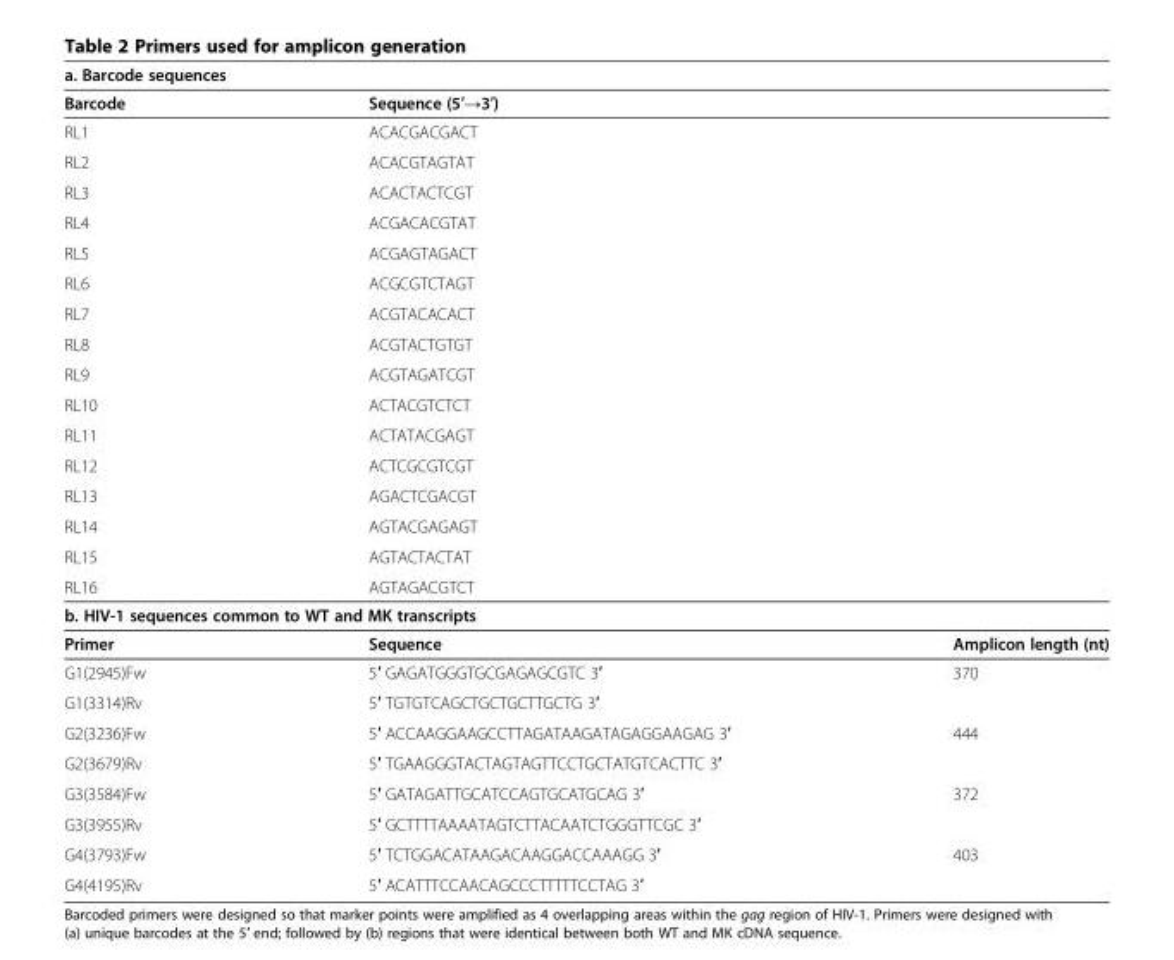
<table><thead><tr><td colspan="3">a. Barcode sequences</td></tr><tr><td>Barcode</td><td colspan="2">Sequence (5′→3′)</td></tr></thead><tbody><tr><td>RL1</td><td colspan="2">ACACGACGACT</td></tr><tr><td>RL2</td><td colspan="2">ACACGTAGTAT</td></tr><tr><td>RL3</td><td colspan="2">ACACTACTCGT</td></tr><tr><td>RL4</td><td colspan="2">ACGACACGTAT</td></tr><tr><td>RL5</td><td colspan="2">ACGAGTAGACT</td></tr><tr><td>RL6</td><td colspan="2">ACGCGTCTAGT</td></tr><tr><td>RL7</td><td colspan="2">ACGTACACACT</td></tr><tr><td>RL8</td><td colspan="2">ACGTACTGTGT</td></tr><tr><td>RL9</td><td colspan="2">ACGTAGATCGT</td></tr><tr><td>RL10</td><td colspan="2">ACTACGTCTCT</td></tr><tr><td>RL11</td><td colspan="2">ACTATACGAGT</td></tr><tr><td>RL12</td><td colspan="2">ACTCGCGTCGT</td></tr><tr><td>RL13</td><td colspan="2">AGACTCGACGT</td></tr><tr><td>RL14</td><td colspan="2">AGTACGAGAGT</td></tr><tr><td>RL15</td><td colspan="2">AGTACTACTAT</td></tr><tr><td>RL16</td><td colspan="2">AGTAGACGTCT</td></tr><tr><td colspan="3">b. HIV-1 sequences common to WT and MK transcripts</td></tr><tr><td>Primer</td><td>Sequence</td><td>Amplicon length (nt)</td></tr><tr><td>G1(2945)Fw</td><td>5′ GAGATGGGTGCGAGAGCGTC 3′</td><td rowspan="2">370</td></tr><tr><td>G1(3314)Rv</td><td>5′ TGTGTCAGCTGCTGCTTGCTG 3′</td></tr><tr><td>G2(3236)Fw</td><td>5′ ACCAAGGAAGCCTTAGATAAGATAGAGGAAGAG 3′</td><td rowspan="2">444</td></tr><tr><td>G2(3679)Rv</td><td>5′ TGAAGGGTACTAGTAGTTCCTGCTATGTCACTTC 3′</td></tr><tr><td>G3(3584)Fw</td><td>5′ GATAGATTGCATCCAGTGCATGCAG 3′</td><td rowspan="2">372</td></tr><tr><td>G3(3955)Rv</td><td>5′ GCTTTTAAAATAGTCTTACAATCTGGGTTCGC 3′</td></tr><tr><td>G4(3793)Fw</td><td>5′ TCTGGACATAAGACAAGGACCAAAGG 3′</td><td rowspan="2">403</td></tr><tr><td>G4(4195)Rv</td><td>5′ ACATTTCCAACAGCCCTTTTTCCTAG 3′</td></tr></tbody></table>